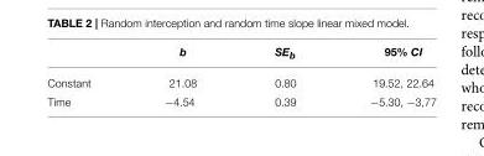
<table><thead><tr><td></td><td>b</td><td>SEb</td><td>95% CI</td></tr></thead><tbody><tr><td>Constant</td><td>21.08</td><td>0.80</td><td>19.52, 22.64</td></tr><tr><td>Time</td><td>−4.54</td><td>0.39</td><td>−5.30, −3,77</td></tr></tbody></table>